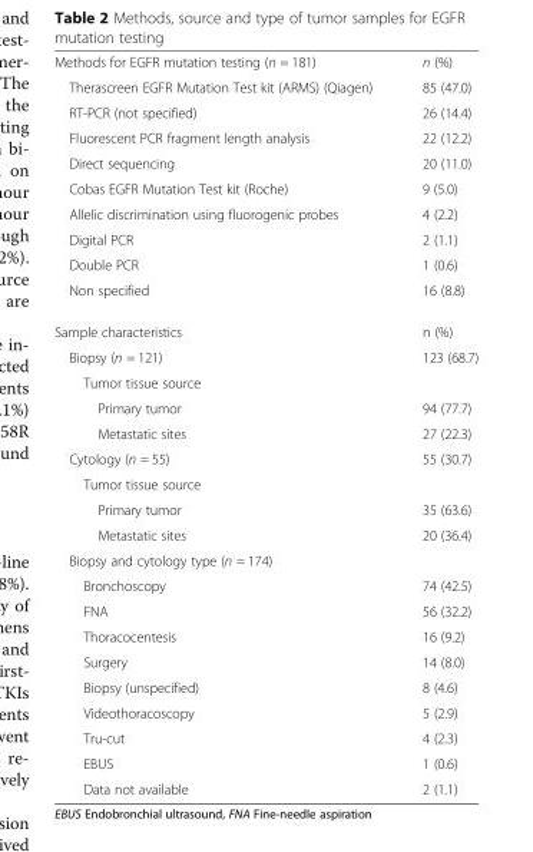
<table><tbody><tr><td>Methods for EGFR mutation testing (n = 181)</td><td>n (%)</td></tr><tr><td>Therascreen EGFR Mutation Test kit (ARMS) (Qiagen)</td><td>85 (47.0)</td></tr><tr><td>RT-PCR (not specified)</td><td>26 (14.4)</td></tr><tr><td>Fluorescent PCR fragment length analysis</td><td>22 (12.2)</td></tr><tr><td>Direct sequencing</td><td>20 (11.0)</td></tr><tr><td>Cobas EGFR Mutation Test kit (Roche)</td><td>9 (5.0)</td></tr><tr><td>Allelic discrimination using fluorogenic probes</td><td>4 (2.2)</td></tr><tr><td>Digital PCR</td><td>2 (1.1)</td></tr><tr><td>Double PCR</td><td>1 (0.6)</td></tr><tr><td>Non specified</td><td>16 (8.8)</td></tr><tr><td>Sample characteristics</td><td>n (%)</td></tr><tr><td>Biopsy (n = 121)</td><td>123 (68.7)</td></tr><tr><td colspan="2">Tumor tissue source</td></tr><tr><td>Primary tumor</td><td>94 (77.7)</td></tr><tr><td>Metastatic sites</td><td>27 (22.3)</td></tr><tr><td>Cytology (n = 55)</td><td>55 (30.7)</td></tr><tr><td colspan="2">Tumor tissue source</td></tr><tr><td>Primary tumor</td><td>35 (63.6)</td></tr><tr><td>Metastatic sites</td><td>20 (36.4)</td></tr><tr><td colspan="2">Biopsy and cytology type (n = 174)</td></tr><tr><td>Bronchoscopy</td><td>74 (42.5)</td></tr><tr><td>FNA</td><td>56 (32.2)</td></tr><tr><td>Thoracocentesis</td><td>16 (9.2)</td></tr><tr><td>Surgery</td><td>14 (8.0)</td></tr><tr><td>Biopsy (unspecified)</td><td>8 (4.6)</td></tr><tr><td>Videothoracoscopy</td><td>5 (2.9)</td></tr><tr><td>Tru-cut</td><td>4 (2.3)</td></tr><tr><td>EBUS</td><td>1 (0.6)</td></tr><tr><td>Data not available</td><td>2 (1.1)</td></tr></tbody></table>